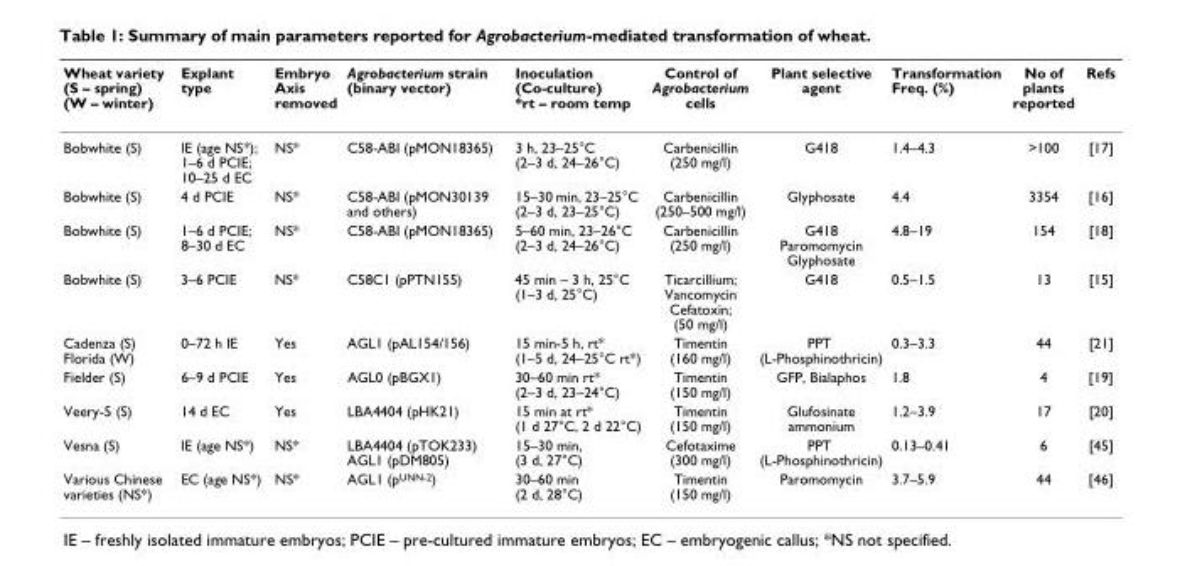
<table><thead><tr><td>Wheat variety (S – spring) (W – winter)</td><td>Explant type</td><td>Embryo Axis removed</td><td>Agrobacterium strain (binary vector)</td><td>Inoculation (Co-culture) *rt – room temp</td><td>Control of Agrobacterium cells</td><td>Plant selective agent</td><td>Transformation Freq. (%)</td><td>No of plants reported</td><td>Refs</td></tr></thead><tbody><tr><td>Bobwhite (S)</td><td>IE (age NS*); 1–6 d PCIE; 10–25 d EC</td><td>NS*</td><td>C58-ABI (pMON18365)</td><td>3 h, 23–25°C (2–3 d, 24–26°C)</td><td>Carbenicillin (250 mg/l)</td><td>G418</td><td>1.4–4.3</td><td>&gt;100</td><td>[17]</td></tr><tr><td>Bobwhite (S)</td><td>4 d PCIE</td><td>NS*</td><td>C58-ABI (pMON30139 and others)</td><td>15–30 min, 23–25°C (2–3 d, 23–25°C)</td><td>Carbenicillin (250–500 mg/l)</td><td>Glyphosate</td><td>4.4</td><td>3354</td><td>[16]</td></tr><tr><td>Bobwhite (S)</td><td>1–6 d PCIE; 8–30 d EC</td><td>NS*</td><td>C58-ABI (pMON18365)</td><td>5–60 min, 23–26°C (2–3 d, 24–26°C)</td><td>Carbenicillin (250 mg/l)</td><td>G418 Paromomycin Glyphosate</td><td>4.8–19</td><td>154</td><td>[18]</td></tr><tr><td>Bobwhite (S)</td><td>3–6 PCIE</td><td>NS*</td><td>C58C1 (pPTN155)</td><td>45 min – 3 h, 25°C (1–3 d, 25°C)</td><td>Ticarcillium; Vancomycin Cefatoxin; (50 mg/l)</td><td>G418</td><td>0.5–1.5</td><td>13</td><td>[15]</td></tr><tr><td>Cadenza (S) Florida (W)</td><td>0–72 h IE</td><td>Yes</td><td>AGL1 (pAL154/156)</td><td>15 min-5 h, rt* (1–5 d, 24–25°C rt*)</td><td>Timentin (160 mg/l)</td><td>PPT (L-Phosphinothricin)</td><td>0.3–3.3</td><td>44</td><td>[21]</td></tr><tr><td>Fielder (S)</td><td>6–9 d PCIE</td><td>Yes</td><td>AGL0 (pBGX1)</td><td>30–60 min rt* (2–3 d, 23–24°C)</td><td>Timentin (150 mg/l)</td><td>GFP, Bialaphos</td><td>1.8</td><td>4</td><td>[19]</td></tr><tr><td>Veery-5 (S)</td><td>14 d EC</td><td>Yes</td><td>LBA4404 (pHK21)</td><td>15 min at rt* (1 d 27°C, 2 d 22°C)</td><td>Timentin (150 mg/l)</td><td>Glufosinate ammonium</td><td>1.2–3.9</td><td>17</td><td>[20]</td></tr><tr><td>Vesna (S)</td><td>IE (age NS*)</td><td>NS*</td><td>LBA4404 (pTOK233) AGL1 (pDM805)</td><td>15–30 min, (3 d, 27°C)</td><td>Cefotaxime (300 mg/l)</td><td>PPT (L-Phosphinothricin)</td><td>0.13–0.41</td><td>6</td><td>[45]</td></tr><tr><td>Various Chinese varieties (NS*)</td><td>EC (age NS*)</td><td>NS*</td><td>AGL1 (p<sup>UNN-2</sup>)</td><td>30–60 min (2 d, 28°C)</td><td>Timentin (150 mg/l)</td><td>Paromomycin</td><td>3.7–5.9</td><td>44</td><td>[46]</td></tr></tbody></table>